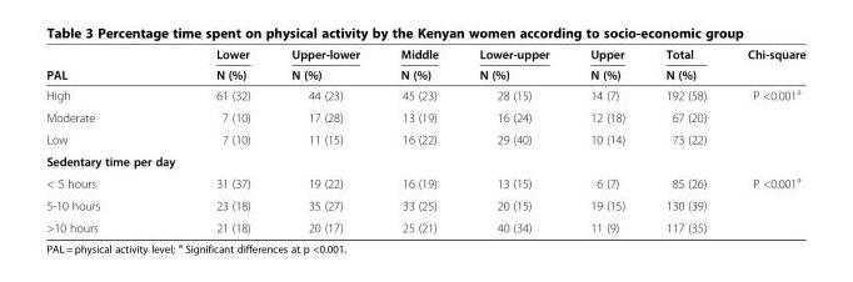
<table><thead><tr><td rowspan="2">PAL</td><td rowspan="2">Lower N (%)</td><td rowspan="2">Upper-lower N (%)</td><td rowspan="2">Middle N (%)</td><td rowspan="2">Lower-upper N (%)</td><td rowspan="2">Upper N (%)</td><td rowspan="2">Total N (%)</td><td rowspan="2">Chi-square</td></tr><tr></tr></thead><tbody><tr><td>High</td><td>61 (32)</td><td>44 (23)</td><td>45 (23)</td><td>28 (15)</td><td>14 (7)</td><td>192 (58)</td><td>P &lt;0.001<sup>a</sup></td></tr><tr><td>Moderate</td><td>7 (10)</td><td>17 (28)</td><td>13 (19)</td><td>16 (24)</td><td>12 (18)</td><td>67 (20)</td><td></td></tr><tr><td>Low</td><td>7 (10)</td><td>11 (15)</td><td>16 (22)</td><td>29 (40)</td><td>10 (14)</td><td>73 (22)</td><td></td></tr><tr><td colspan="8">Sedentary time per day</td></tr><tr><td>&lt; 5 hours</td><td>31 (37)</td><td>19 (22)</td><td>16 (19)</td><td>13 (15)</td><td>6 (7)</td><td>85 (26)</td><td>P &lt;0.001<sup>a</sup></td></tr><tr><td>5-10 hours</td><td>23 (18)</td><td>35 (27)</td><td>33 (25)</td><td>20 (15)</td><td>19 (15)</td><td>130 (39)</td><td></td></tr><tr><td>&gt;10 hours</td><td>21 (18)</td><td>20 (17)</td><td>25 (21)</td><td>40 (34)</td><td>11 (9)</td><td>117 (35)</td><td></td></tr></tbody></table>